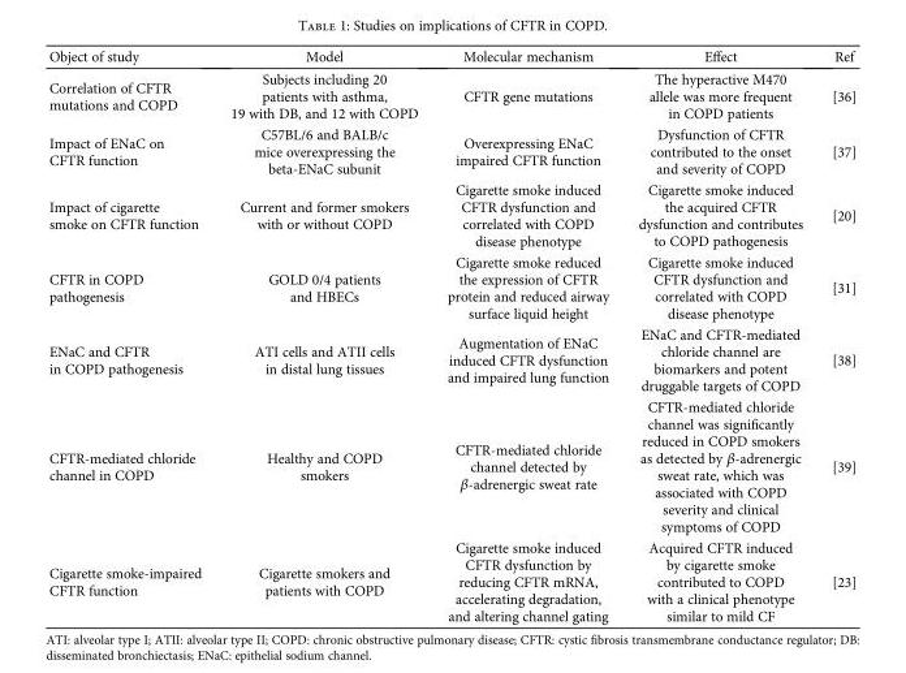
<table><thead><tr><td>Object of study</td><td>Model</td><td>Molecular mechanism</td><td>Effect</td><td>Ref</td></tr></thead><tbody><tr><td>Correlation of CFTR mutations and COPD</td><td>Subjects including 20 patients with asthma, 19 with DB, and 12 with COPD</td><td>CFTR gene mutations</td><td>The hyperactive M470 allele was more frequent in COPD patients</td><td>[36]</td></tr><tr><td>Impact of ENaC on CFTR function</td><td>C57BL/6 and BALB/c mice overexpressing the beta-ENaC subunit</td><td>Overexpressing ENaC impaired CFTR function</td><td>Dysfunction of CFTR contributed to the onset and severity of COPD</td><td>[37]</td></tr><tr><td>Impact of cigarette smoke on CFTR function</td><td>Current and former smokers with or without COPD</td><td>Cigarette smoke induced CFTR dysfunction and correlated with COPD disease phenotype</td><td>Cigarette smoke induced the acquired CFTR dysfunction and contributes to COPD pathogenesis</td><td>[20]</td></tr><tr><td>CFTR in COPD pathogenesis</td><td>GOLD 0/4 patients and HBECs</td><td>Cigarette smoke reduced the expression of CFTR protein and reduced airway surface liquid height</td><td>Cigarette smoke induced CFTR dysfunction and correlated with COPD disease phenotype</td><td>[31]</td></tr><tr><td>ENaC and CFTR in COPD pathogenesis</td><td>ATI cells and ATII cells in distal lung tissues</td><td>Augmentation of ENaC induced CFTR dysfunction and impaired lung function</td><td>ENaC and CFTR-mediated chloride channel are biomarkers and potent druggable targets of COPD</td><td>[38]</td></tr><tr><td>CFTR-mediated chloride channel in COPD</td><td>Healthy and COPD smokers</td><td>CFTR-mediated chloride channel detected by β-adrenergic sweat rate</td><td>CFTR-mediated chloride channel was significantly reduced in COPD smokers as detected by β-adrenergic sweat rate, which was associated with COPD severity and clinical symptoms of COPD</td><td>[39]</td></tr><tr><td>Cigarette smoke-impaired CFTR function</td><td>Cigarette smokers and patients with COPD</td><td>Cigarette smoke induced CFTR dysfunction by reducing CFTR mRNA, accelerating degradation, and altering channel gating</td><td>Acquired CFTR induced by cigarette smoke contributed to COPD with a clinical phenotype similar to mild CF</td><td>[23]</td></tr></tbody></table>